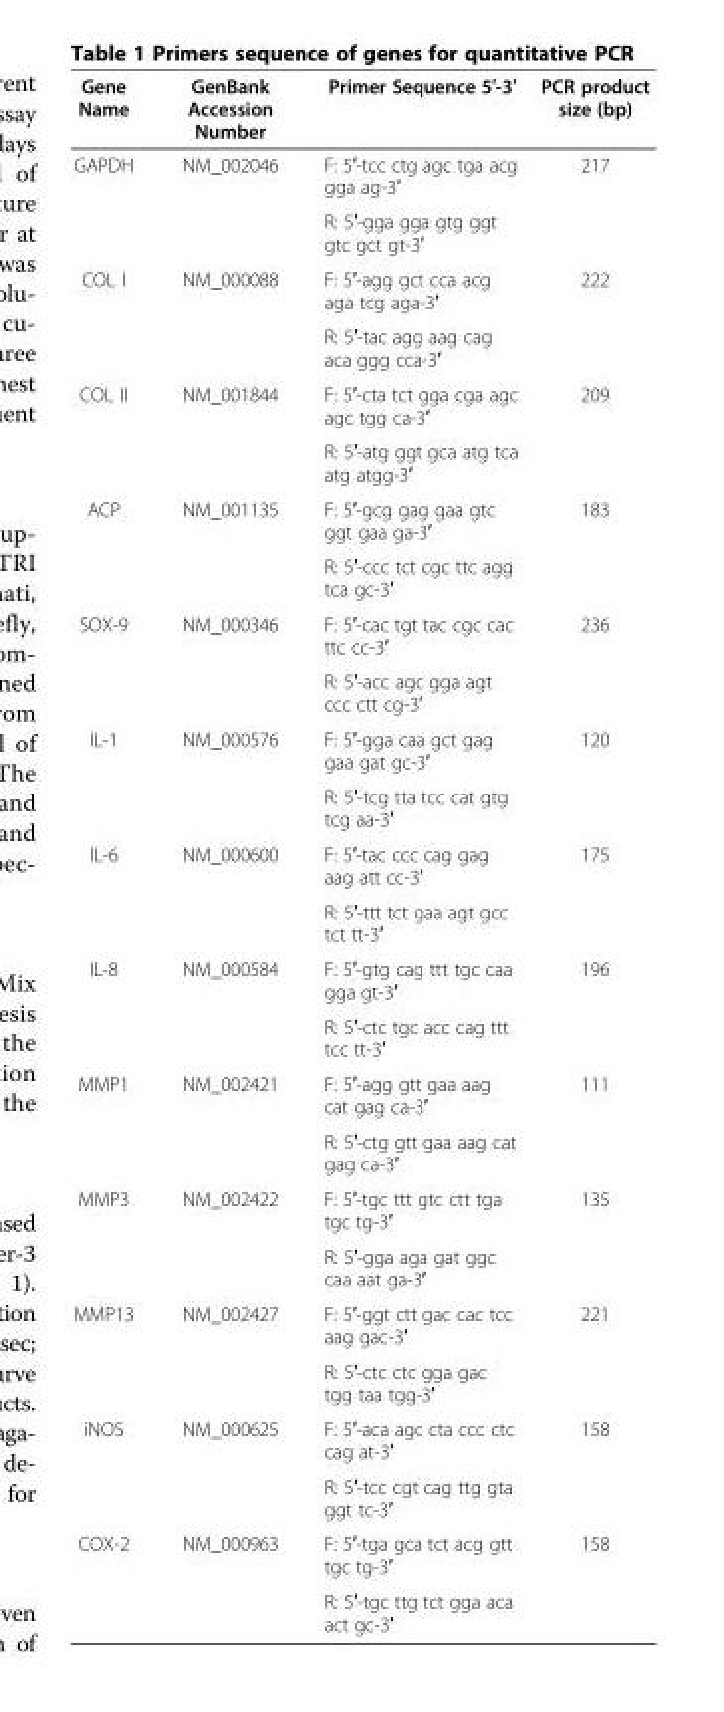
<table><thead><tr><td>Gene Name</td><td>GenBank Accession Number</td><td>Primer Sequence 5′-3′</td><td>PCR product size (bp)</td></tr></thead><tbody><tr><td rowspan="2">GAPDH</td><td rowspan="2">NM_002046</td><td>F: 5′-tcc ctg agc tga acg gga ag-3′</td><td rowspan="2">217</td></tr><tr><td>R: 5′-gga gga gtg ggt gtc gct gt-3′</td></tr><tr><td rowspan="2">COL I</td><td rowspan="2">NM_000088</td><td>F: 5′-agg gct cca acg aga tcg aga-3′</td><td rowspan="2">222</td></tr><tr><td>R: 5′-tac agg aag cag aca ggg cca-3′</td></tr><tr><td rowspan="2">COL II</td><td rowspan="2">NM_001844</td><td>F: 5′-cta tct gga cga agc agc tgg ca-3′</td><td rowspan="2">209</td></tr><tr><td>R: 5′-atg ggt gca atg tca atg atgg-3′</td></tr><tr><td rowspan="2">ACP</td><td rowspan="2">NM_001135</td><td>F: 5′-gcg gag gaa gtc ggt gaa ga-3′</td><td rowspan="2">183</td></tr><tr><td>R: 5′-ccc tct cgc ttc agg tca gc-3′</td></tr><tr><td rowspan="2">SOX-9</td><td rowspan="2">NM_000346</td><td>F: 5′-cac tgt tac cgc cac ttc cc-3′</td><td rowspan="2">236</td></tr><tr><td>R: 5′-acc agc gga agt ccc ctt cg-3′</td></tr><tr><td rowspan="2">IL-1</td><td rowspan="2">NM_000576</td><td>F: 5′-gga caa gct gag gaa gat gc-3′</td><td rowspan="2">120</td></tr><tr><td>R: 5′-tcg tta tcc cat gtg tcg aa-3′</td></tr><tr><td rowspan="2">IL-6</td><td rowspan="2">NM_000600</td><td>F: 5′-tac ccc cag gag aag att cc-3′</td><td rowspan="2">175</td></tr><tr><td>R: 5′-ttt tct gaa agt gcc tct tt-3′</td></tr><tr><td rowspan="2">IL-8</td><td rowspan="2">NM_000584</td><td>F: 5′-gtg cag ttt tgc caa gga gt-3′</td><td rowspan="2">196</td></tr><tr><td>R: 5′-ctc tgc acc cag ttt tcc tt-3′</td></tr><tr><td rowspan="2">MMP1</td><td rowspan="2">NM_002421</td><td>F: 5′-agg gtt gaa aag cat gag ca-3′</td><td rowspan="2">111</td></tr><tr><td>R: 5′-ctg gtt gaa aag cat gag ca-3′</td></tr><tr><td rowspan="2">MMP3</td><td rowspan="2">NM_002422</td><td>F: 5′-tgc ttt gtc ctt tga tgc tg-3′</td><td rowspan="2">135</td></tr><tr><td>R: 5′-gga aga gat ggc caa aat ga-3′</td></tr><tr><td rowspan="2">MMP13</td><td rowspan="2">NM_002427</td><td>F: 5′-ggt ctt gac cac tcc aag gac-3′</td><td rowspan="2">221</td></tr><tr><td>R: 5′-ctc ctc gga gac tgg taa tgg-3′</td></tr><tr><td rowspan="2">iNOS</td><td rowspan="2">NM_000625</td><td>F: 5′-aca agc cta ccc ctc cag at-3′</td><td rowspan="2">158</td></tr><tr><td>R: 5′-tcc cgt cag ttg gta ggt tc-3′</td></tr><tr><td rowspan="2">COX-2</td><td>NM_000963</td><td>F: 5′-tga gca tct acg gtt tgc tg-3′</td><td>158</td></tr><tr><td></td><td>R: 5′-tgc ttg tct gga aca act gc-3′</td><td></td></tr></tbody></table>